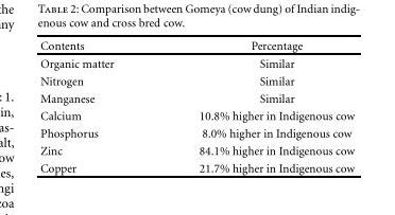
<table><thead><tr><td>Contents</td><td>Percentage</td></tr></thead><tbody><tr><td>Organic matter</td><td>Similar</td></tr><tr><td>Nitrogen</td><td>Similar</td></tr><tr><td>Manganese</td><td>Similar</td></tr><tr><td>Calcium</td><td>10.8% higher in Indigenous cow</td></tr><tr><td>Phosphorus</td><td>8.0% higher in Indigenous cow</td></tr><tr><td>Zinc</td><td>84.1% higher in Indigenous cow</td></tr><tr><td>Copper</td><td>21.7% higher in Indigenous cow</td></tr></tbody></table>